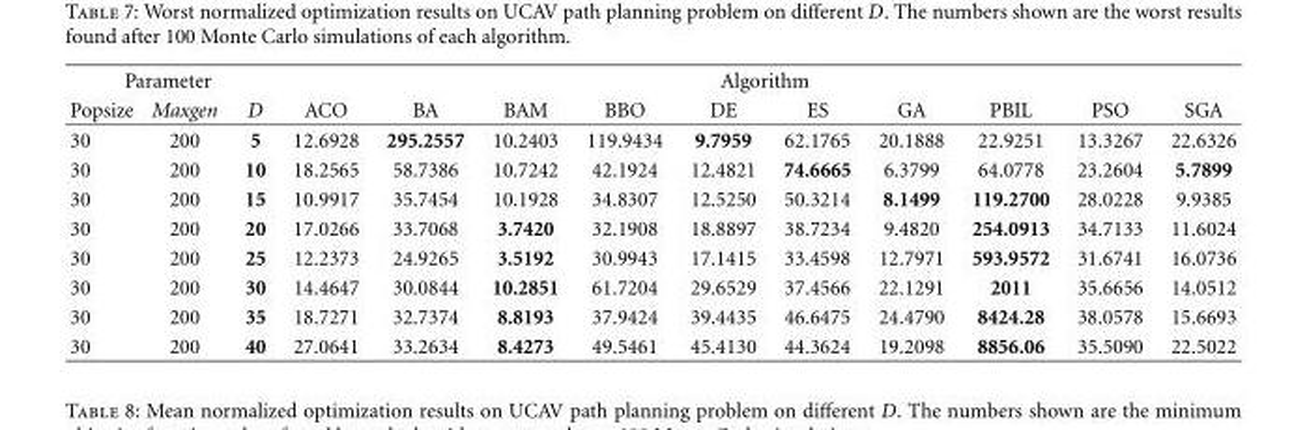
<table><thead><tr><td colspan="3">Parameter</td><td colspan="10">Algorithm</td></tr><tr><td>Popsize</td><td>Maxgen</td><td>D</td><td>ACO</td><td>BA</td><td>BAM</td><td>BBO</td><td>DE</td><td>ES</td><td>GA</td><td>PBIL</td><td>PSO</td><td>SGA</td></tr></thead><tbody><tr><td>30</td><td>200</td><td>5</td><td>12.6928</td><td>295.2557</td><td>10.2403</td><td>119.9434</td><td>9.7959</td><td>62.1765</td><td>20.1888</td><td>22.9251</td><td>13.3267</td><td>22.6326</td></tr><tr><td>30</td><td>200</td><td>10</td><td>18.2565</td><td>58.7386</td><td>10.7242</td><td>42.1924</td><td>12.4821</td><td>74.6665</td><td>6.3799</td><td>64.0778</td><td>23.2604</td><td>5.7899</td></tr><tr><td>30</td><td>200</td><td>15</td><td>10.9917</td><td>35.7454</td><td>10.1928</td><td>34.8307</td><td>12.5250</td><td>50.3214</td><td>8.1499</td><td>119.2700</td><td>28.0228</td><td>9.9385</td></tr><tr><td>30</td><td>200</td><td>20</td><td>17.0266</td><td>33.7068</td><td>3.7420</td><td>32.1908</td><td>18.8897</td><td>38.7234</td><td>9.4820</td><td>254.0913</td><td>34.7133</td><td>11.6024</td></tr><tr><td>30</td><td>200</td><td>25</td><td>12.2373</td><td>24.9265</td><td>3.5192</td><td>30.9943</td><td>17.1415</td><td>33.4598</td><td>12.7971</td><td>593.9572</td><td>31.6741</td><td>16.0736</td></tr><tr><td>30</td><td>200</td><td>30</td><td>14.4647</td><td>30.0844</td><td>10.2851</td><td>61.7204</td><td>29.6529</td><td>37.4566</td><td>22.1291</td><td>2011</td><td>35.6656</td><td>14.0512</td></tr><tr><td>30</td><td>200</td><td>35</td><td>18.7271</td><td>32.7374</td><td>8.8193</td><td>37.9424</td><td>39.4435</td><td>46.6475</td><td>24.4790</td><td>8424.28</td><td>38.0578</td><td>15.6693</td></tr><tr><td>30</td><td>200</td><td>40</td><td>27.0641</td><td>33.2634</td><td>8.4273</td><td>49.5461</td><td>45.4130</td><td>44.3624</td><td>19.2098</td><td>8856.06</td><td>35.5090</td><td>22.5022</td></tr></tbody></table>